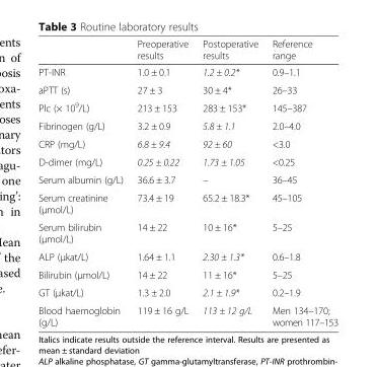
<table><thead><tr><td></td><td>Preoperative results</td><td>Postoperative results</td><td>Reference range</td></tr></thead><tbody><tr><td>PT-INR</td><td>1.0 ± 0.1</td><td>1.2 ± 0.2*</td><td>0.9–1.1</td></tr><tr><td>aPTT (s)</td><td>27 ± 3</td><td>30 ± 4*</td><td>26–33</td></tr><tr><td>Plc (× 10<sup>9</sup>/L)</td><td>213 ± 153</td><td>283 ± 153*</td><td>145–387</td></tr><tr><td>Fibrinogen (g/L)</td><td>3.2 ± 0.9</td><td>5.8 ± 1.1</td><td>2.0–4.0</td></tr><tr><td>CRP (mg/L)</td><td>6.8 ± 9.4</td><td>92 ± 60</td><td>&lt;3.0</td></tr><tr><td>D-dimer (mg/L)</td><td>0.25 ± 0.22</td><td>1.73 ± 1.05</td><td>&lt;0.25</td></tr><tr><td>Serum albumin (g/L)</td><td>36.6 ± 3.7</td><td>–</td><td>36–45</td></tr><tr><td>Serum creatinine (μmol/L)</td><td>73.4 ± 19</td><td>65.2 ± 18.3*</td><td>45–105</td></tr><tr><td>Serum bilirubin (μmol/L)</td><td>14 ± 22</td><td>10 ± 16*</td><td>5–25</td></tr><tr><td>ALP (μkat/L)</td><td>1.64 ± 1.1</td><td>2.30 ± 1.3*</td><td>0.6–1.8</td></tr><tr><td>Bilirubin (μmol/L)</td><td>14 ± 22</td><td>11 ± 16*</td><td>5–25</td></tr><tr><td>GT (μkat/L)</td><td>1.3 ± 2.0</td><td>2.1 ± 1.9*</td><td>0.2–1.9</td></tr><tr><td>Blood haemoglobin (g/L)</td><td>119 ± 16 g/L</td><td>113 ± 12 g/L</td><td>Men 134–170; women 117–153</td></tr></tbody></table>